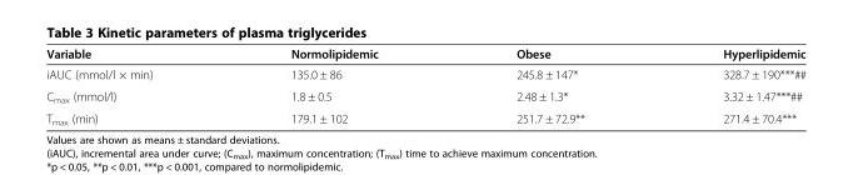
<table><thead><tr><td>Variable</td><td>Normolipidemic</td><td>Obese</td><td>Hyperlipidemic</td></tr></thead><tbody><tr><td>iAUC (mmol/l × min)</td><td>135.0 ± 86</td><td>245.8 ± 147*</td><td>328.7 ± 190***##</td></tr><tr><td>C<sub>max</sub> (mmol/l)</td><td>1.8 ± 0.5</td><td>2.48 ± 1.3*</td><td>3.32 ± 1.47***##</td></tr><tr><td>T<sub>max</sub> (min)</td><td>179.1 ± 102</td><td>251.7 ± 72.9**</td><td>271.4 ± 70.4***</td></tr></tbody></table>